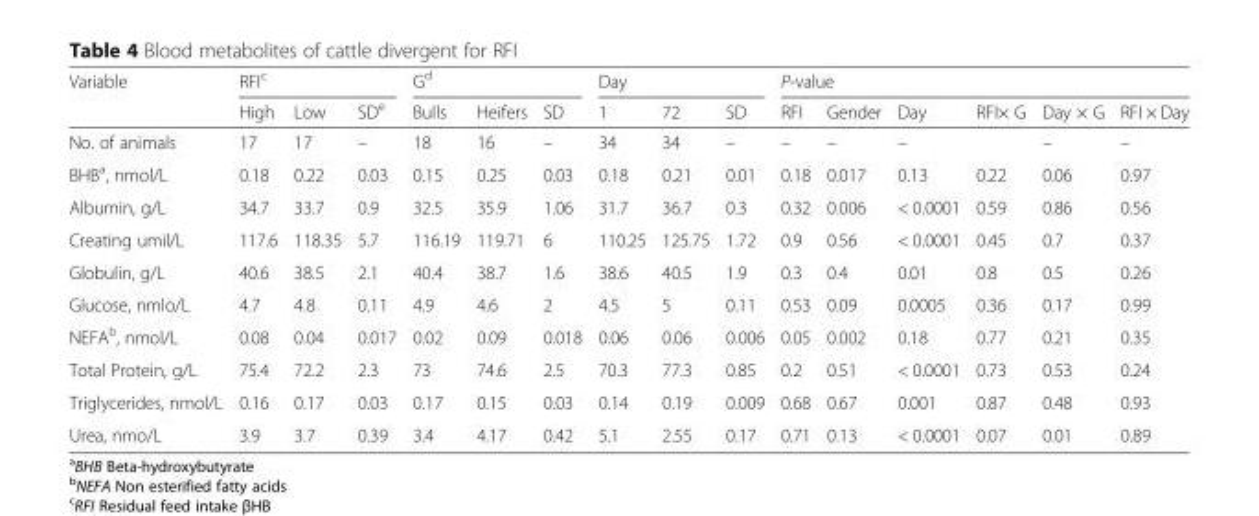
<table><thead><tr><td rowspan="2">Variable</td><td colspan="3">RFI<sup>c</sup></td><td colspan="3">G<sup>d</sup></td><td colspan="3">Day</td><td colspan="6">P-value</td></tr><tr><td>High</td><td>Low</td><td>SD<sup>e</sup></td><td>Bulls</td><td>Heifers</td><td>SD</td><td>1</td><td>72</td><td>SD</td><td>RFI</td><td>Gender</td><td>Day</td><td>RFI× G</td><td>Day × G</td><td>RFI × Day</td></tr></thead><tbody><tr><td>No. of animals</td><td>17</td><td>17</td><td>–</td><td>18</td><td>16</td><td>–</td><td>34</td><td>34</td><td>–</td><td>–</td><td>–</td><td>–</td><td></td><td>–</td><td>–</td></tr><tr><td>BHB<sup>a</sup>, nmol/L</td><td>0.18</td><td>0.22</td><td>0.03</td><td>0.15</td><td>0.25</td><td>0.03</td><td>0.18</td><td>0.21</td><td>0.01</td><td>0.18</td><td>0.017</td><td>0.13</td><td>0.22</td><td>0.06</td><td>0.97</td></tr><tr><td>Albumin, g/L</td><td>34.7</td><td>33.7</td><td>0.9</td><td>32.5</td><td>35.9</td><td>1.06</td><td>31.7</td><td>36.7</td><td>0.3</td><td>0.32</td><td>0.006</td><td>&lt; 0.0001</td><td>0.59</td><td>0.86</td><td>0.56</td></tr><tr><td>Creating umil/L</td><td>117.6</td><td>118.35</td><td>5.7</td><td>116.19</td><td>119.71</td><td>6</td><td>110.25</td><td>125.75</td><td>1.72</td><td>0.9</td><td>0.56</td><td>&lt; 0.0001</td><td>0.45</td><td>0.7</td><td>0.37</td></tr><tr><td>Globulin, g/L</td><td>40.6</td><td>38.5</td><td>2.1</td><td>40.4</td><td>38.7</td><td>1.6</td><td>38.6</td><td>40.5</td><td>1.9</td><td>0.3</td><td>0.4</td><td>0.01</td><td>0.8</td><td>0.5</td><td>0.26</td></tr><tr><td>Glucose, nmlo/L</td><td>4.7</td><td>4.8</td><td>0.11</td><td>4.9</td><td>4.6</td><td>2</td><td>4.5</td><td>5</td><td>0.11</td><td>0.53</td><td>0.09</td><td>0.0005</td><td>0.36</td><td>0.17</td><td>0.99</td></tr><tr><td>NEFA<sup>b</sup>, nmol/L</td><td>0.08</td><td>0.04</td><td>0.017</td><td>0.02</td><td>0.09</td><td>0.018</td><td>0.06</td><td>0.06</td><td>0.006</td><td>0.05</td><td>0.002</td><td>0.18</td><td>0.77</td><td>0.21</td><td>0.35</td></tr><tr><td>Total Protein, g/L</td><td>75.4</td><td>72.2</td><td>2.3</td><td>73</td><td>74.6</td><td>2.5</td><td>70.3</td><td>77.3</td><td>0.85</td><td>0.2</td><td>0.51</td><td>&lt; 0.0001</td><td>0.73</td><td>0.53</td><td>0.24</td></tr><tr><td>Triglycerides, nmol/L</td><td>0.16</td><td>0.17</td><td>0.03</td><td>0.17</td><td>0.15</td><td>0.03</td><td>0.14</td><td>0.19</td><td>0.009</td><td>0.68</td><td>0.67</td><td>0.001</td><td>0.87</td><td>0.48</td><td>0.93</td></tr><tr><td>Urea, nmo/L</td><td>3.9</td><td>3.7</td><td>0.39</td><td>3.4</td><td>4.17</td><td>0.42</td><td>5.1</td><td>2.55</td><td>0.17</td><td>0.71</td><td>0.13</td><td>&lt; 0.0001</td><td>0.07</td><td>0.01</td><td>0.89</td></tr></tbody></table>